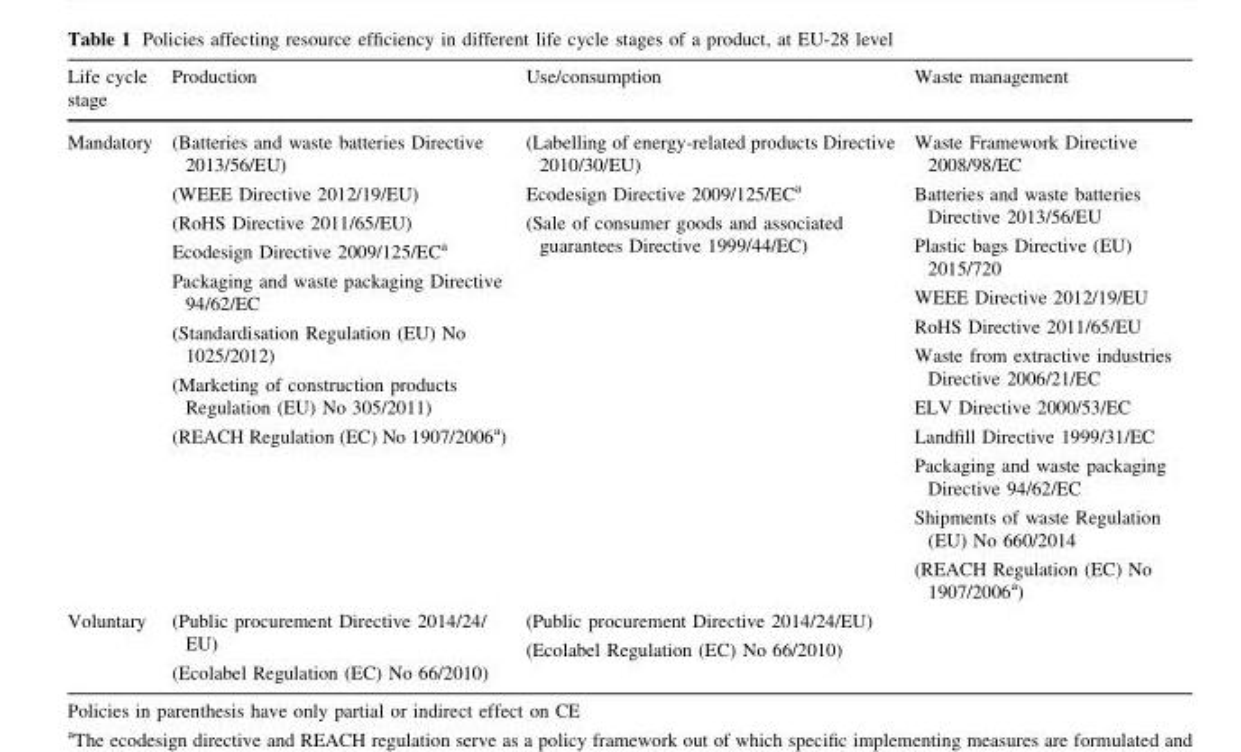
<table><thead><tr><td>Life cycle stage</td><td>Production</td><td>Use/consumption</td><td>Waste management</td></tr></thead><tbody><tr><td>Mandatory</td><td>(Batteries and waste batteries Directive 2013/56/EU) (WEEE Directive 2012/19/EU) (RoHS Directive 2011/65/EU) Ecodesign Directive 2009/125/EC<sup>a</sup> Packaging and waste packaging Directive 94/62/EC (Standardisation Regulation (EU) No 1025/2012) (Marketing of construction products Regulation (EU) No 305/2011) (REACH Regulation (EC) No 1907/2006<sup>a</sup>)</td><td>(Labelling of energy-related products Directive 2010/30/EU) Ecodesign Directive 2009/125/EC<sup>a</sup> (Sale of consumer goods and associated guarantees Directive 1999/44/EC)</td><td>Waste Framework Directive 2008/98/EC Batteries and waste batteries Directive 2013/56/EU Plastic bags Directive (EU) 2015/720 WEEE Directive 2012/19/EU RoHS Directive 2011/65/EU Waste from extractive industries Directive 2006/21/EC ELV Directive 2000/53/EC Landfill Directive 1999/31/EC Packaging and waste packaging Directive 94/62/EC Shipments of waste Regulation (EU) No 660/2014 (REACH Regulation (EC) No 1907/2006<sup>a</sup>)</td></tr><tr><td>Voluntary</td><td>(Public procurement Directive 2014/24/ EU) (Ecolabel Regulation (EC) No 66/2010)</td><td>(Public procurement Directive 2014/24/EU) (Ecolabel Regulation (EC) No 66/2010)</td><td></td></tr></tbody></table>